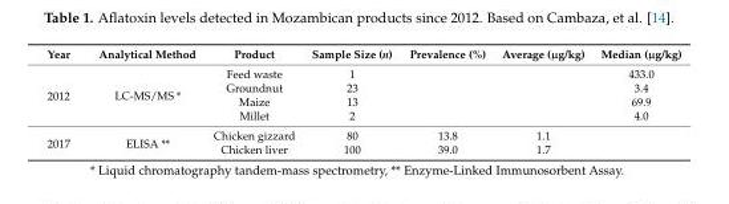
<table><thead><tr><td>Year</td><td>Analytical Method</td><td>Product</td><td>Sample Size (n)</td><td>Prevalence (%)</td><td>Average (µg/kg)</td><td>Median (µg/kg)</td></tr></thead><tbody><tr><td rowspan="4">2012</td><td rowspan="4">LC-MS/MS *</td><td>Feed waste</td><td>1</td><td></td><td></td><td>433.0</td></tr><tr><td>Groundnut</td><td>23</td><td></td><td></td><td>3.4</td></tr><tr><td>Maize</td><td>13</td><td></td><td></td><td>69.9</td></tr><tr><td>Millet</td><td>2</td><td></td><td></td><td>4.0</td></tr><tr><td rowspan="2">2017</td><td rowspan="2">ELISA **</td><td>Chicken gizzard</td><td>80</td><td>13.8</td><td>1.1</td><td></td></tr><tr><td>Chicken liver</td><td>100</td><td>39.0</td><td>1.7</td><td></td></tr></tbody></table>